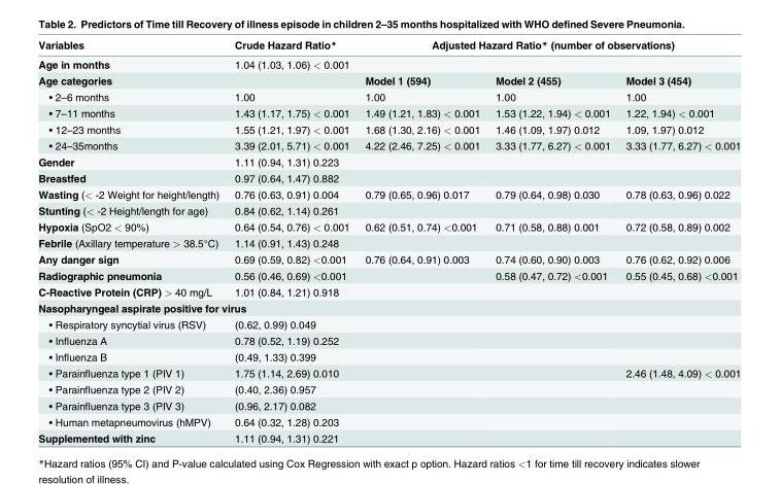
<table><thead><tr><td rowspan="3">Variables Age in months Age categories</td><td rowspan="3">Crude Hazard Ratio* 1.04 (1.03, 1.06) &lt; 0.001</td><td rowspan="2" colspan="3">Adjusted Hazard Ratio* (number of observations)</td></tr><tr></tr><tr><td>Model 1 (594)</td><td>Model 2 (455)</td><td>Model 3 (454)</td></tr></thead><tbody><tr><td>• 2–6 months</td><td>1.00</td><td>1.00</td><td>1.00</td><td>1.00</td></tr><tr><td>• 7–11 months</td><td>1.43 (1.17, 1.75) &lt; 0.001</td><td>1.49 (1.21, 1.83) &lt; 0.001</td><td>1.53 (1.22, 1.94) &lt; 0.001</td><td>1.22, 1.94) &lt; 0.001</td></tr><tr><td>• 12–23 months</td><td>1.55 (1.21, 1.97) &lt; 0.001</td><td>1.68 (1.30, 2.16) &lt; 0.001</td><td>1.46 (1.09, 1.97) 0.012</td><td>1.09, 1.97) 0.012</td></tr><tr><td>• 24–35months</td><td>3.39 (2.01, 5.71) &lt; 0.001</td><td>4.22 (2.46, 7.25) &lt; 0.001</td><td>3.33 (1.77, 6.27) &lt; 0.001</td><td>3.33 (1.77, 6.27) &lt; 0.001</td></tr><tr><td>Gender</td><td>1.11 (0.94, 1.31) 0.223</td><td></td><td></td><td></td></tr><tr><td>Breastfed</td><td>0.97 (0.64, 1.47) 0.882</td><td></td><td></td><td></td></tr><tr><td>Wasting (&lt; -2 Weight for height/length)</td><td>0.76 (0.63, 0.91) 0.004</td><td>0.79 (0.65, 0.96) 0.017</td><td>0.79 (0.64, 0.98) 0.030</td><td>0.78 (0.63, 0.96) 0.022</td></tr><tr><td>Stunting (&lt; -2 Height/length for age)</td><td>0.84 (0.62, 1.14) 0.261</td><td></td><td></td><td></td></tr><tr><td>Hypoxia (SpO2 &lt; 90%)</td><td>0.64 (0.54, 0.76) &lt; 0.001</td><td>0.62 (0.51, 0.74) &lt;0.001</td><td>0.71 (0.58, 0.88) 0.001</td><td>0.72 (0.58, 0.89) 0.002</td></tr><tr><td>Febrile (Axillary temperature &gt; 38.5°C)</td><td>1.14 (0.91, 1.43) 0.248</td><td></td><td></td><td></td></tr><tr><td>Any danger sign</td><td>0.69 (0.59, 0.82) &lt;0.001</td><td>0.76 (0.64, 0.91) 0.003</td><td>0.74 (0.60, 0.90) 0.003</td><td>0.76 (0.62, 0.92) 0.006</td></tr><tr><td>Radiographic pneumonia</td><td>0.56 (0.46, 0.69) &lt;0.001</td><td></td><td>0.58 (0.47, 0.72) &lt;0.001</td><td>0.55 (0.45, 0.68) &lt;0.001</td></tr><tr><td>C-Reactive Protein (CRP) &gt; 40 mg/L</td><td>1.01 (0.84, 1.21) 0.918</td><td></td><td></td><td></td></tr><tr><td colspan="5">Nasopharyngeal aspirate positive for virus</td></tr><tr><td>• Respiratory syncytial virus (RSV)</td><td>(0.62, 0.99) 0.049</td><td></td><td></td><td></td></tr><tr><td>• Influenza A</td><td>0.78 (0.52, 1.19) 0.252</td><td></td><td></td><td></td></tr><tr><td>• Influenza B</td><td>(0.49, 1.33) 0.399</td><td></td><td></td><td></td></tr><tr><td>• Parainfluenza type 1 (PIV 1)</td><td>1.75 (1.14, 2.69) 0.010</td><td></td><td></td><td>2.46 (1.48, 4.09) &lt; 0.001</td></tr><tr><td>• Parainfluenza type 2 (PIV 2)</td><td>(0.40, 2.36) 0.957</td><td></td><td></td><td></td></tr><tr><td>• Parainfluenza type 3 (PIV 3)</td><td>(0.96, 2.17) 0.082</td><td></td><td></td><td></td></tr><tr><td>• Human metapneumovirus (hMPV)</td><td>0.64 (0.32, 1.28) 0.203</td><td></td><td></td><td></td></tr><tr><td>Supplemented with zinc</td><td>1.11 (0.94, 1.31) 0.221</td><td></td><td></td><td></td></tr></tbody></table>